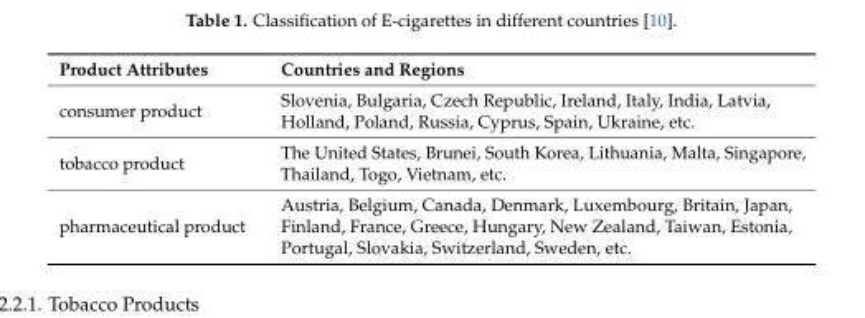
<table><thead><tr><td>Product Attributes</td><td>Countries and Regions</td></tr></thead><tbody><tr><td>consumer product</td><td>Slovenia, Bulgaria, Czech Republic, Ireland, Italy, India, Latvia, Holland, Poland, Russia, Cyprus, Spain, Ukraine, etc.</td></tr><tr><td>tobacco product</td><td>The United States, Brunei, South Korea, Lithuania, Malta, Singapore, Thailand, Togo, Vietnam, etc.</td></tr><tr><td>pharmaceutical product</td><td>Austria, Belgium, Canada, Denmark, Luxembourg, Britain, Japan, Finland, France, Greece, Hungary, New Zealand, Taiwan, Estonia, Portugal, Slovakia, Switzerland, Sweden, etc.</td></tr></tbody></table>